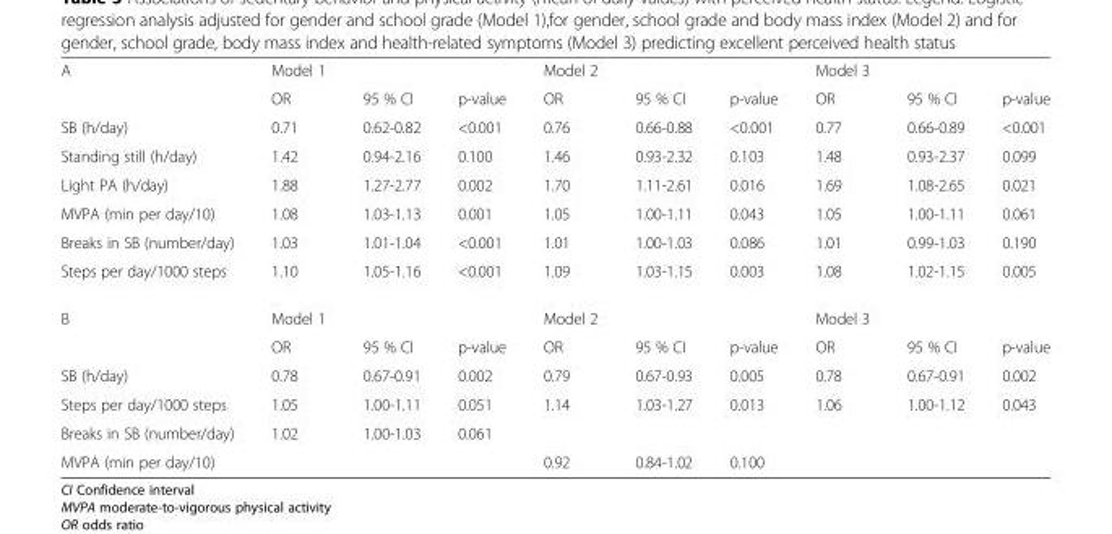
<table><tbody><tr><td rowspan="2">A</td><td>Model 1</td><td></td><td></td><td>Model 2</td><td></td><td></td><td>Model 3</td><td></td><td></td></tr><tr><td>OR</td><td>95 % CI</td><td>p-value</td><td>OR</td><td>95 % CI</td><td>p-value</td><td>OR</td><td>95 % CI</td><td>p-value</td></tr><tr><td>SB (h/day)</td><td>0.71</td><td>0.62-0.82</td><td>&lt;0.001</td><td>0.76</td><td>0.66-0.88</td><td>&lt;0.001</td><td>0.77</td><td>0.66-0.89</td><td>&lt;0.001</td></tr><tr><td>Standing still (h/day)</td><td>1.42</td><td>0.94-2.16</td><td>0.100</td><td>1.46</td><td>0.93-2.32</td><td>0.103</td><td>1.48</td><td>0.93-2.37</td><td>0.099</td></tr><tr><td>Light PA (h/day)</td><td>1.88</td><td>1.27-2.77</td><td>0.002</td><td>1.70</td><td>1.11-2.61</td><td>0.016</td><td>1.69</td><td>1.08-2.65</td><td>0.021</td></tr><tr><td>MVPA (min per day/10)</td><td>1.08</td><td>1.03-1.13</td><td>0.001</td><td>1.05</td><td>1.00-1.11</td><td>0.043</td><td>1.05</td><td>1.00-1.11</td><td>0.061</td></tr><tr><td>Breaks in SB (number/day)</td><td>1.03</td><td>1.01-1.04</td><td>&lt;0.001</td><td>1.01</td><td>1.00-1.03</td><td>0.086</td><td>1.01</td><td>0.99-1.03</td><td>0.190</td></tr><tr><td>Steps per day/1000 steps</td><td>1.10</td><td>1.05-1.16</td><td>&lt;0.001</td><td>1.09</td><td>1.03-1.15</td><td>0.003</td><td>1.08</td><td>1.02-1.15</td><td>0.005</td></tr><tr><td rowspan="2">B</td><td>Model 1</td><td></td><td></td><td>Model 2</td><td></td><td></td><td>Model 3</td><td></td><td></td></tr><tr><td>OR</td><td>95 % CI</td><td>p-value</td><td>OR</td><td>95 % CI</td><td>p-value</td><td>OR</td><td>95 % CI</td><td>p-value</td></tr><tr><td>SB (h/day)</td><td>0.78</td><td>0.67-0.91</td><td>0.002</td><td>0.79</td><td>0.67-0.93</td><td>0.005</td><td>0.78</td><td>0.67-0.91</td><td>0.002</td></tr><tr><td>Steps per day/1000 steps</td><td>1.05</td><td>1.00-1.11</td><td>0.051</td><td>1.14</td><td>1.03-1.27</td><td>0.013</td><td>1.06</td><td>1.00-1.12</td><td>0.043</td></tr><tr><td>Breaks in SB (number/day)</td><td>1.02</td><td>1.00-1.03</td><td>0.061</td><td></td><td></td><td></td><td></td><td></td><td></td></tr><tr><td>MVPA (min per day/10)</td><td></td><td></td><td></td><td>0.92</td><td>0.84-1.02</td><td>0.100</td><td></td><td></td><td></td></tr></tbody></table>